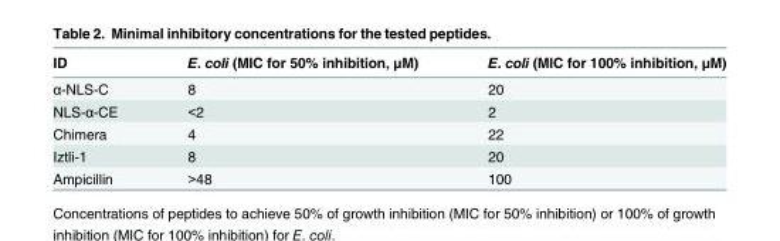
<table><thead><tr><td>ID</td><td>E. coli (MIC for 50% inhibition, μM)</td><td>E. coli (MIC for 100% inhibition, μM)</td></tr></thead><tbody><tr><td>α-NLS-C</td><td>8</td><td>20</td></tr><tr><td>NLS-α-CE</td><td>&lt;2</td><td>2</td></tr><tr><td>Chimera</td><td>4</td><td>22</td></tr><tr><td>Iztli-1</td><td>8</td><td>20</td></tr><tr><td>Ampicillin</td><td>&gt;48</td><td>100</td></tr></tbody></table>